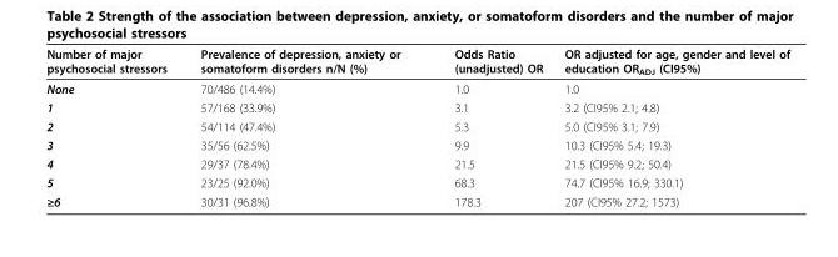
<table><thead><tr><td>Number of major psychosocial stressors</td><td>Prevalence of depression, anxiety or somatoform disorders n/N (%)</td><td>Odds Ratio (unadjusted) OR</td><td>OR adjusted for age, gender and level of education OR<sub>ADJ</sub> (CI95%)</td></tr></thead><tbody><tr><td>None</td><td>70/486 (14.4%)</td><td>1.0</td><td>1.0</td></tr><tr><td>1</td><td>57/168 (33.9%)</td><td>3.1</td><td>3.2 (CI95% 2.1; 4.8)</td></tr><tr><td>2</td><td>54/114 (47.4%)</td><td>5.3</td><td>5.0 (CI95% 3.1; 7.9)</td></tr><tr><td>3</td><td>35/56 (62.5%)</td><td>9.9</td><td>10.3 (CI95% 5.4; 19.3)</td></tr><tr><td>4</td><td>29/37 (78.4%)</td><td>21.5</td><td>21.5 (CI95% 9.2; 50.4)</td></tr><tr><td>5</td><td>23/25 (92.0%)</td><td>68.3</td><td>74.7 (CI95% 16.9; 330.1)</td></tr><tr><td>≥6</td><td>30/31 (96.8%)</td><td>178.3</td><td>207 (CI95% 27.2; 1573)</td></tr></tbody></table>